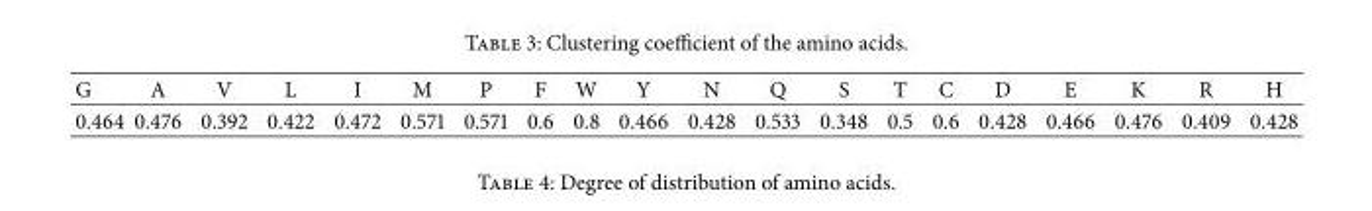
<table><tbody><tr><td>G</td><td>A</td><td>V</td><td>L</td><td>I</td><td>M</td><td>P</td><td>F</td><td>W</td><td>Y</td><td>N</td><td>Q</td><td>S</td><td>T</td><td>C</td><td>D</td><td>E</td><td>K</td><td>R</td><td>H</td></tr><tr><td>0.464</td><td>0.476</td><td>0.392</td><td>0.422</td><td>0.472</td><td>0.571</td><td>0.571</td><td>0.6</td><td>0.8</td><td>0.466</td><td>0.428</td><td>0.533</td><td>0.348</td><td>0.5</td><td>0.6</td><td>0.428</td><td>0.466</td><td>0.476</td><td>0.409</td><td>0.428</td></tr></tbody></table>